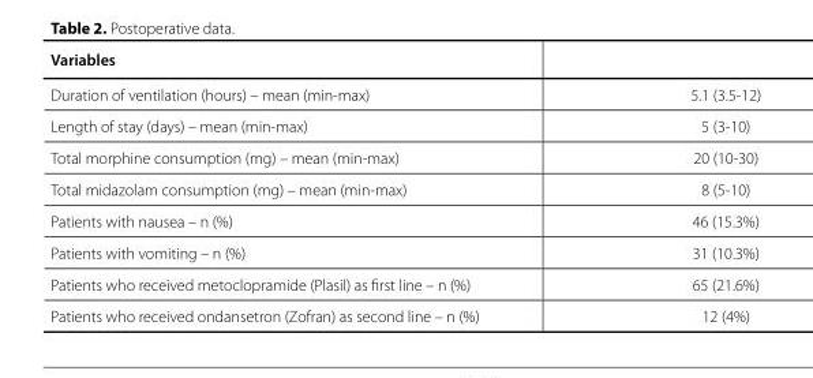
<table><thead><tr><td>Variables</td><td></td></tr></thead><tbody><tr><td>Duration of ventilation (hours) – mean (min-max)</td><td>5.1 (3.5-12)</td></tr><tr><td>Length of stay (days) – mean (min-max)</td><td>5 (3-10)</td></tr><tr><td>Total morphine consumption (mg) – mean (min-max)</td><td>20 (10-30)</td></tr><tr><td>Total midazolam consumption (mg) – mean (min-max)</td><td>8 (5-10)</td></tr><tr><td>Patients with nausea – n (%)</td><td>46 (15.3%)</td></tr><tr><td>Patients with vomiting – n (%)</td><td>31 (10.3%)</td></tr><tr><td>Patients who received metoclopramide (Plasil) as first line – n (%)</td><td>65 (21.6%)</td></tr><tr><td>Patients who received ondansetron (Zofran) as second line – n (%)</td><td>12 (4%)</td></tr></tbody></table>